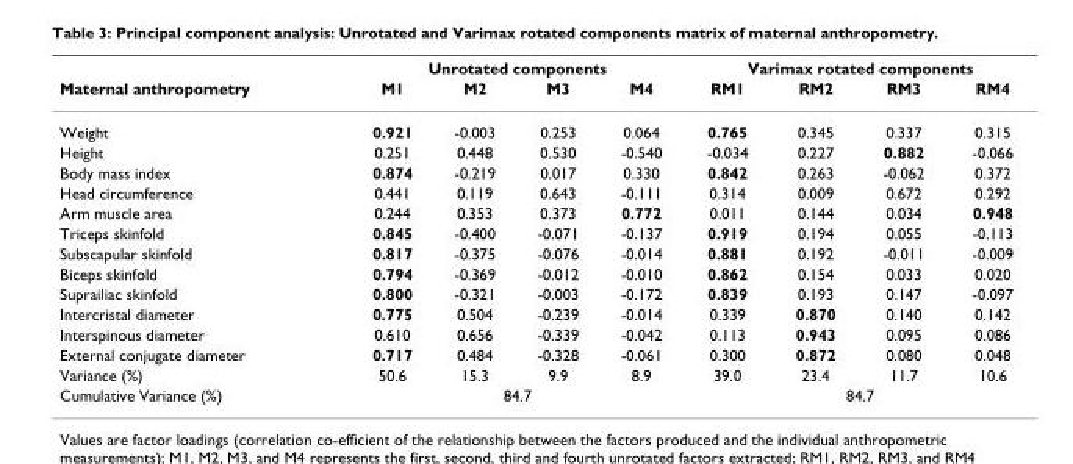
<table><thead><tr><td rowspan="2">Maternal anthropometry</td><td colspan="4">Unrotated components</td><td colspan="4">Varimax rotated components</td></tr><tr><td>M1</td><td>M2</td><td>M3</td><td>M4</td><td>RM1</td><td>RM2</td><td>RM3</td><td>RM4</td></tr></thead><tbody><tr><td>Weight</td><td>0.921</td><td>-0.003</td><td>0.253</td><td>0.064</td><td>0.765</td><td>0.345</td><td>0.337</td><td>0.315</td></tr><tr><td>Height</td><td>0.251</td><td>0.448</td><td>0.530</td><td>-0.540</td><td>-0.034</td><td>0.227</td><td>0.882</td><td>-0.066</td></tr><tr><td>Body mass index</td><td>0.874</td><td>-0.219</td><td>0.017</td><td>0.330</td><td>0.842</td><td>0.263</td><td>-0.062</td><td>0.372</td></tr><tr><td>Head circumference</td><td>0.441</td><td>0.119</td><td>0.643</td><td>-0.111</td><td>0.314</td><td>0.009</td><td>0.672</td><td>0.292</td></tr><tr><td>Arm muscle area</td><td>0.244</td><td>0.353</td><td>0.373</td><td>0.772</td><td>0.011</td><td>0.144</td><td>0.034</td><td>0.948</td></tr><tr><td>Triceps skinfold</td><td>0.845</td><td>-0.400</td><td>-0.071</td><td>-0.137</td><td>0.919</td><td>0.194</td><td>0.055</td><td>-0.113</td></tr><tr><td>Subscapular skinfold</td><td>0.817</td><td>-0.375</td><td>-0.076</td><td>-0.014</td><td>0.881</td><td>0.192</td><td>-0.011</td><td>-0.009</td></tr><tr><td>Biceps skinfold</td><td>0.794</td><td>-0.369</td><td>-0.012</td><td>-0.010</td><td>0.862</td><td>0.154</td><td>0.033</td><td>0.020</td></tr><tr><td>Suprailiac skinfold</td><td>0.800</td><td>-0.321</td><td>-0.003</td><td>-0.172</td><td>0.839</td><td>0.193</td><td>0.147</td><td>-0.097</td></tr><tr><td>Intercristal diameter</td><td>0.775</td><td>0.504</td><td>-0.239</td><td>-0.014</td><td>0.339</td><td>0.870</td><td>0.140</td><td>0.142</td></tr><tr><td>Interspinous diameter</td><td>0.610</td><td>0.656</td><td>-0.339</td><td>-0.042</td><td>0.113</td><td>0.943</td><td>0.095</td><td>0.086</td></tr><tr><td>External conjugate diameter</td><td>0.717</td><td>0.484</td><td>-0.328</td><td>-0.061</td><td>0.300</td><td>0.872</td><td>0.080</td><td>0.048</td></tr><tr><td>Variance (%)</td><td>50.6</td><td>15.3</td><td>9.9</td><td>8.9</td><td>39.0</td><td>23.4</td><td>11.7</td><td>10.6</td></tr><tr><td>Cumulative Variance (%)</td><td colspan="4">84.7</td><td colspan="4">84.7</td></tr></tbody></table>